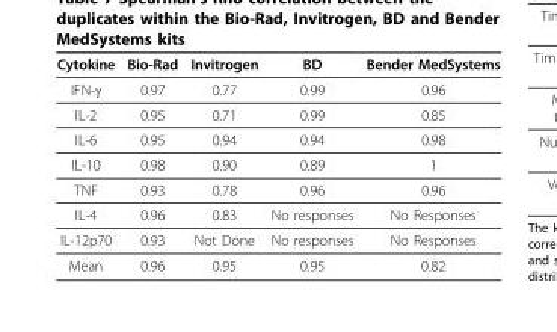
<table><thead><tr><td>Cytokine</td><td>Bio-Rad</td><td>Invitrogen</td><td>BD</td><td>Bender MedSystems</td></tr></thead><tbody><tr><td>IFN-γ</td><td>0.97</td><td>0.77</td><td>0.99</td><td>0.96</td></tr><tr><td>IL-2</td><td>0.95</td><td>0.71</td><td>0.99</td><td>0.85</td></tr><tr><td>IL-6</td><td>0.95</td><td>0.94</td><td>0.94</td><td>0.98</td></tr><tr><td>IL-10</td><td>0.98</td><td>0.90</td><td>0.89</td><td>1</td></tr><tr><td>TNF</td><td>0.93</td><td>0.78</td><td>0.96</td><td>0.96</td></tr><tr><td>IL-4</td><td>0.96</td><td>0.83</td><td>No responses</td><td>No Responses</td></tr><tr><td>IL-12p70</td><td>0.93</td><td>Not Done</td><td>No responses</td><td>No Responses</td></tr><tr><td>Mean</td><td>0.96</td><td>0.95</td><td>0.95</td><td>0.82</td></tr></tbody></table>